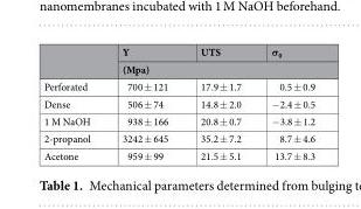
<table><thead><tr><td rowspan="2"></td><td>Y</td><td>UTS</td><td>σ<sub>0</sub></td></tr><tr><td colspan="3">(Mpa)</td></tr></thead><tbody><tr><td>Perforated</td><td>700 ± 121</td><td>17.9 ± 1.7</td><td>0.5 ± 0.9</td></tr><tr><td>Dense</td><td>506 ± 74</td><td>14.8 ± 2.0</td><td>−2.4 ± 0.5</td></tr><tr><td>1 M NaOH</td><td>938 ± 166</td><td>20.8 ± 0.7</td><td>−3.8 ± 1.2</td></tr><tr><td>2-propanol</td><td>3242 ± 645</td><td>35.2 ± 7.2</td><td>8.7 ± 4.6</td></tr><tr><td>Acetone</td><td>959 ± 99</td><td>21.5 ± 5.1</td><td>13.7 ± 8.3</td></tr></tbody></table>